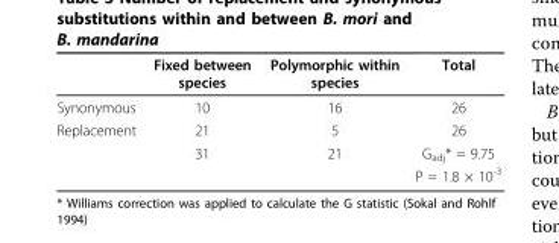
<table><thead><tr><td></td><td>Fixed between species</td><td>Polymorphic within species</td><td>Total</td></tr></thead><tbody><tr><td>Synonymous</td><td>10</td><td>16</td><td>26</td></tr><tr><td rowspan="3">Replacement</td><td>21</td><td>5</td><td>26</td></tr><tr><td>31</td><td>21</td><td>G<sub>adj</sub>* = 9.75</td></tr><tr><td></td><td></td><td>P = 1.8 × 10<sup>-3</sup></td></tr></tbody></table>